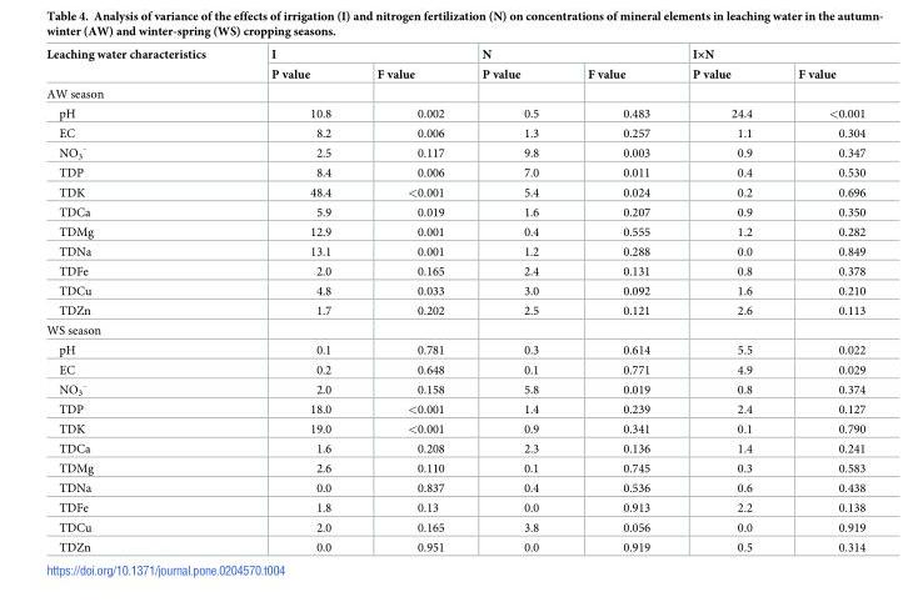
<table><thead><tr><td rowspan="2">Leaching water characteristics</td><td colspan="2">I</td><td colspan="2">N</td><td colspan="2">I×N</td></tr><tr><td>P value</td><td>F value</td><td>P value</td><td>F value</td><td>P value</td><td>F value</td></tr></thead><tbody><tr><td colspan="7">AW season</td></tr><tr><td>pH</td><td>10.8</td><td>0.002</td><td>0.5</td><td>0.483</td><td>24.4</td><td>&lt;0.001</td></tr><tr><td>EC</td><td>8.2</td><td>0.006</td><td>1.3</td><td>0.257</td><td>1.1</td><td>0.304</td></tr><tr><td>NO<sub>3</sub> <sup>-</sup></td><td>2.5</td><td>0.117</td><td>9.8</td><td>0.003</td><td>0.9</td><td>0.347</td></tr><tr><td>TDP</td><td>8.4</td><td>0.006</td><td>7.0</td><td>0.011</td><td>0.4</td><td>0.530</td></tr><tr><td>TDK</td><td>48.4</td><td>&lt;0.001</td><td>5.4</td><td>0.024</td><td>0.2</td><td>0.696</td></tr><tr><td>TDCa</td><td>5.9</td><td>0.019</td><td>1.6</td><td>0.207</td><td>0.9</td><td>0.350</td></tr><tr><td>TDMg</td><td>12.9</td><td>0.001</td><td>0.4</td><td>0.555</td><td>1.2</td><td>0.282</td></tr><tr><td>TDNa</td><td>13.1</td><td>0.001</td><td>1.2</td><td>0.288</td><td>0.0</td><td>0.849</td></tr><tr><td>TDFe</td><td>2.0</td><td>0.165</td><td>2.4</td><td>0.131</td><td>0.8</td><td>0.378</td></tr><tr><td>TDCu</td><td>4.8</td><td>0.033</td><td>3.0</td><td>0.092</td><td>1.6</td><td>0.210</td></tr><tr><td>TDZn</td><td>1.7</td><td>0.202</td><td>2.5</td><td>0.121</td><td>2.6</td><td>0.113</td></tr><tr><td colspan="7">WS season</td></tr><tr><td>pH</td><td>0.1</td><td>0.781</td><td>0.3</td><td>0.614</td><td>5.5</td><td>0.022</td></tr><tr><td>EC</td><td>0.2</td><td>0.648</td><td>0.1</td><td>0.771</td><td>4.9</td><td>0.029</td></tr><tr><td>NO<sub>3</sub> <sup>-</sup></td><td>2.0</td><td>0.158</td><td>5.8</td><td>0.019</td><td>0.8</td><td>0.374</td></tr><tr><td>TDP</td><td>18.0</td><td>&lt;0.001</td><td>1.4</td><td>0.239</td><td>2.4</td><td>0.127</td></tr><tr><td>TDK</td><td>19.0</td><td>&lt;0.001</td><td>0.9</td><td>0.341</td><td>0.1</td><td>0.790</td></tr><tr><td>TDCa</td><td>1.6</td><td>0.208</td><td>2.3</td><td>0.136</td><td>1.4</td><td>0.241</td></tr><tr><td>TDMg</td><td>2.6</td><td>0.110</td><td>0.1</td><td>0.745</td><td>0.3</td><td>0.583</td></tr><tr><td>TDNa</td><td>0.0</td><td>0.837</td><td>0.4</td><td>0.536</td><td>0.6</td><td>0.438</td></tr><tr><td>TDFe</td><td>1.8</td><td>0.13</td><td>0.0</td><td>0.913</td><td>2.2</td><td>0.138</td></tr><tr><td>TDCu</td><td>2.0</td><td>0.165</td><td>3.8</td><td>0.056</td><td>0.0</td><td>0.919</td></tr><tr><td>TDZn</td><td>0.0</td><td>0.951</td><td>0.0</td><td>0.919</td><td>0.5</td><td>0.314</td></tr></tbody></table>